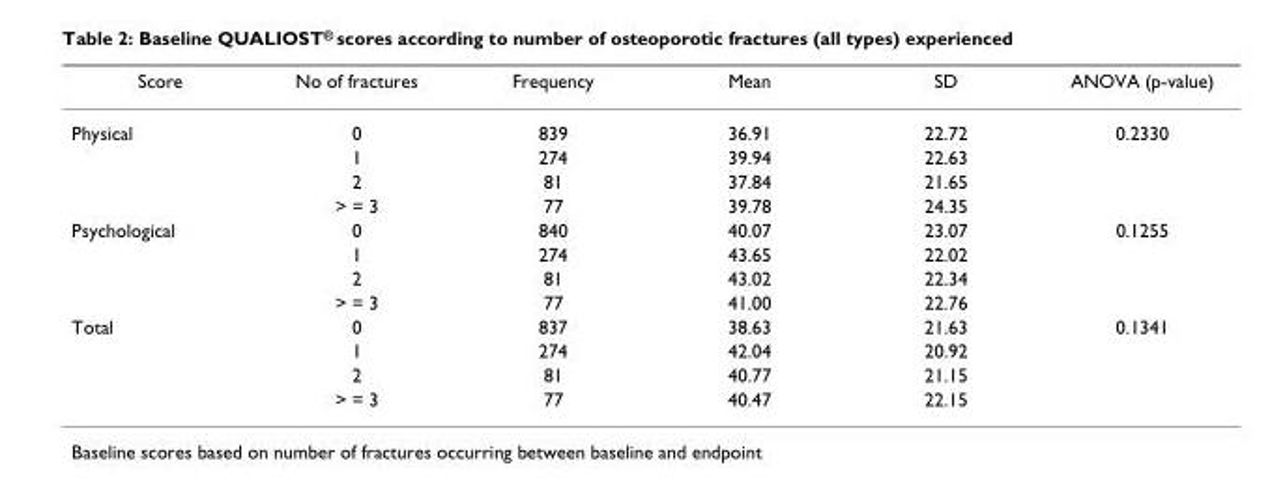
<table><thead><tr><td>Score</td><td>No of fractures</td><td>Frequency</td><td>Mean</td><td>SD</td><td>ANOVA (p-value)</td></tr></thead><tbody><tr><td rowspan="4">Physical</td><td>0</td><td>839</td><td>36.91</td><td>22.72</td><td>0.2330</td></tr><tr><td>1</td><td>274</td><td>39.94</td><td>22.63</td><td></td></tr><tr><td>2</td><td>81</td><td>37.84</td><td>21.65</td><td></td></tr><tr><td>&gt; = 3</td><td>77</td><td>39.78</td><td>24.35</td><td></td></tr><tr><td rowspan="4">Psychological</td><td>0</td><td>840</td><td>40.07</td><td>23.07</td><td>0.1255</td></tr><tr><td>1</td><td>274</td><td>43.65</td><td>22.02</td><td></td></tr><tr><td>2</td><td>81</td><td>43.02</td><td>22.34</td><td></td></tr><tr><td>&gt; = 3</td><td>77</td><td>41.00</td><td>22.76</td><td></td></tr><tr><td rowspan="4">Total</td><td>0</td><td>837</td><td>38.63</td><td>21.63</td><td>0.1341</td></tr><tr><td>1</td><td>274</td><td>42.04</td><td>20.92</td><td></td></tr><tr><td>2</td><td>81</td><td>40.77</td><td>21.15</td><td></td></tr><tr><td>&gt; = 3</td><td>77</td><td>40.47</td><td>22.15</td><td></td></tr></tbody></table>